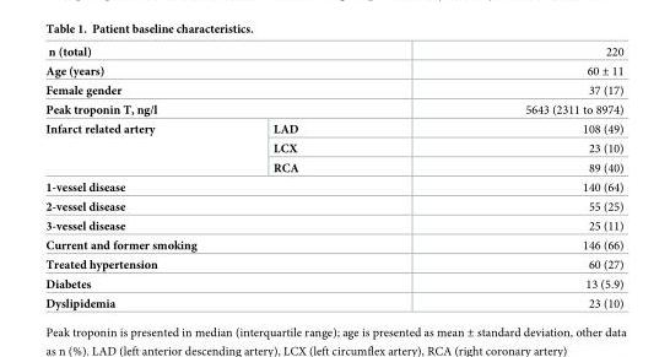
<table><tbody><tr><td colspan="2">n (total)</td><td>220</td></tr><tr><td colspan="2">Age (years)</td><td>60 ± 11</td></tr><tr><td colspan="2">Female gender</td><td>37 (17)</td></tr><tr><td colspan="2">Peak troponin T, ng/l</td><td>5643 (2311 to 8974)</td></tr><tr><td rowspan="3">Infarct related artery</td><td>LAD</td><td>108 (49)</td></tr><tr><td>LCX</td><td>23 (10)</td></tr><tr><td>RCA</td><td>89 (40)</td></tr><tr><td colspan="2">1-vessel disease</td><td>140 (64)</td></tr><tr><td colspan="2">2-vessel disease</td><td>55 (25)</td></tr><tr><td colspan="2">3-vessel disease</td><td>25 (11)</td></tr><tr><td colspan="2">Current and former smoking</td><td>146 (66)</td></tr><tr><td colspan="2">Treated hypertension</td><td>60 (27)</td></tr><tr><td colspan="2">Diabetes</td><td>13 (5.9)</td></tr><tr><td colspan="2">Dyslipidemia</td><td>23 (10)</td></tr></tbody></table>